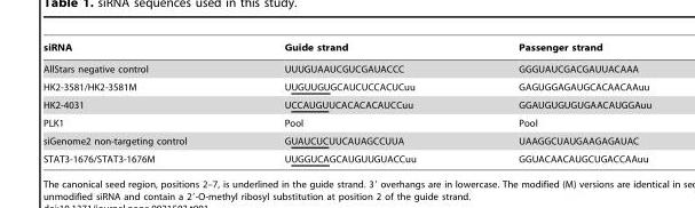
<table><thead><tr><td>siRNA</td><td>Guide strand</td><td>Passenger strand</td></tr></thead><tbody><tr><td>AllStars negative control</td><td>UUUGUAAUCGUCGAUACCC</td><td>GGGUAUCGACGAUUACAAA</td></tr><tr><td>HK2-3581/HK2-3581M</td><td>UUGUUGUGCAUCUCCACUCuu</td><td>GAGUGGAGAUGCACAACAAuu</td></tr><tr><td>HK2-4031</td><td>UCCAUGUUCACACACAUCCuu</td><td>GGAUGUGUGUGAACAUGGAuu</td></tr><tr><td>PLK1</td><td>Pool</td><td>Pool</td></tr><tr><td>siGenome2 non-targeting control</td><td>GUAUCUCUUCAUAGCCUUA</td><td>UAAGGCUAUGAAGAGAUAC</td></tr><tr><td>STAT3-1676/STAT3-1676M</td><td>UUGGUCAGCAUGUUGUACCuu</td><td>GGUACAACAUGCUGACCAAuu</td></tr></tbody></table>